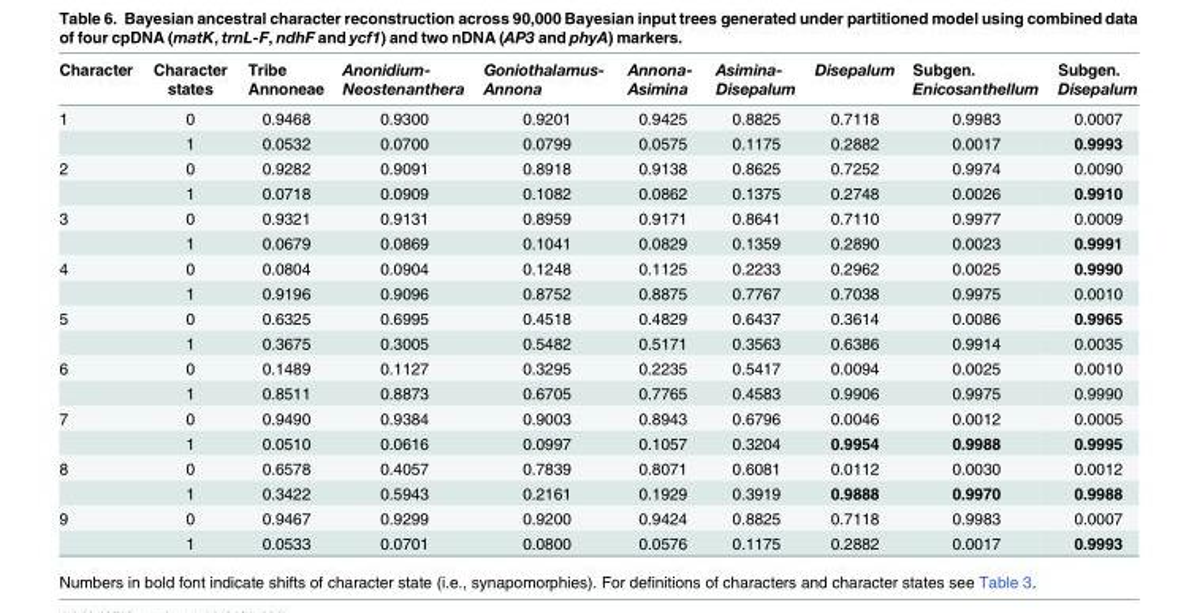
<table><thead><tr><td>Character</td><td>Character states</td><td>Tribe Annoneae</td><td>Anonidium- Neostenanthera</td><td>Goniothalamus- Annona</td><td>Annona- Asimina</td><td>Asimina- Disepalum</td><td>Disepalum</td><td>Subgen. Enicosanthellum</td><td>Subgen. Disepalum</td></tr></thead><tbody><tr><td rowspan="2">1</td><td>0</td><td>0.9468</td><td>0.9300</td><td>0.9201</td><td>0.9425</td><td>0.8825</td><td>0.7118</td><td>0.9983</td><td>0.0007</td></tr><tr><td>1</td><td>0.0532</td><td>0.0700</td><td>0.0799</td><td>0.0575</td><td>0.1175</td><td>0.2882</td><td>0.0017</td><td>0.9993</td></tr><tr><td rowspan="2">2</td><td>0</td><td>0.9282</td><td>0.9091</td><td>0.8918</td><td>0.9138</td><td>0.8625</td><td>0.7252</td><td>0.9974</td><td>0.0090</td></tr><tr><td>1</td><td>0.0718</td><td>0.0909</td><td>0.1082</td><td>0.0862</td><td>0.1375</td><td>0.2748</td><td>0.0026</td><td>0.9910</td></tr><tr><td rowspan="2">3</td><td>0</td><td>0.9321</td><td>0.9131</td><td>0.8959</td><td>0.9171</td><td>0.8641</td><td>0.7110</td><td>0.9977</td><td>0.0009</td></tr><tr><td>1</td><td>0.0679</td><td>0.0869</td><td>0.1041</td><td>0.0829</td><td>0.1359</td><td>0.2890</td><td>0.0023</td><td>0.9991</td></tr><tr><td rowspan="2">4</td><td>0</td><td>0.0804</td><td>0.0904</td><td>0.1248</td><td>0.1125</td><td>0.2233</td><td>0.2962</td><td>0.0025</td><td>0.9990</td></tr><tr><td>1</td><td>0.9196</td><td>0.9096</td><td>0.8752</td><td>0.8875</td><td>0.7767</td><td>0.7038</td><td>0.9975</td><td>0.0010</td></tr><tr><td rowspan="2">5</td><td>0</td><td>0.6325</td><td>0.6995</td><td>0.4518</td><td>0.4829</td><td>0.6437</td><td>0.3614</td><td>0.0086</td><td>0.9965</td></tr><tr><td>1</td><td>0.3675</td><td>0.3005</td><td>0.5482</td><td>0.5171</td><td>0.3563</td><td>0.6386</td><td>0.9914</td><td>0.0035</td></tr><tr><td rowspan="2">6</td><td>0</td><td>0.1489</td><td>0.1127</td><td>0.3295</td><td>0.2235</td><td>0.5417</td><td>0.0094</td><td>0.0025</td><td>0.0010</td></tr><tr><td>1</td><td>0.8511</td><td>0.8873</td><td>0.6705</td><td>0.7765</td><td>0.4583</td><td>0.9906</td><td>0.9975</td><td>0.9990</td></tr><tr><td rowspan="2">7</td><td>0</td><td>0.9490</td><td>0.9384</td><td>0.9003</td><td>0.8943</td><td>0.6796</td><td>0.0046</td><td>0.0012</td><td>0.0005</td></tr><tr><td>1</td><td>0.0510</td><td>0.0616</td><td>0.0997</td><td>0.1057</td><td>0.3204</td><td>0.9954</td><td>0.9988</td><td>0.9995</td></tr><tr><td rowspan="2">8</td><td>0</td><td>0.6578</td><td>0.4057</td><td>0.7839</td><td>0.8071</td><td>0.6081</td><td>0.0112</td><td>0.0030</td><td>0.0012</td></tr><tr><td>1</td><td>0.3422</td><td>0.5943</td><td>0.2161</td><td>0.1929</td><td>0.3919</td><td>0.9888</td><td>0.9970</td><td>0.9988</td></tr><tr><td rowspan="2">9</td><td>0</td><td>0.9467</td><td>0.9299</td><td>0.9200</td><td>0.9424</td><td>0.8825</td><td>0.7118</td><td>0.9983</td><td>0.0007</td></tr><tr><td>1</td><td>0.0533</td><td>0.0701</td><td>0.0800</td><td>0.0576</td><td>0.1175</td><td>0.2882</td><td>0.0017</td><td>0.9993</td></tr></tbody></table>